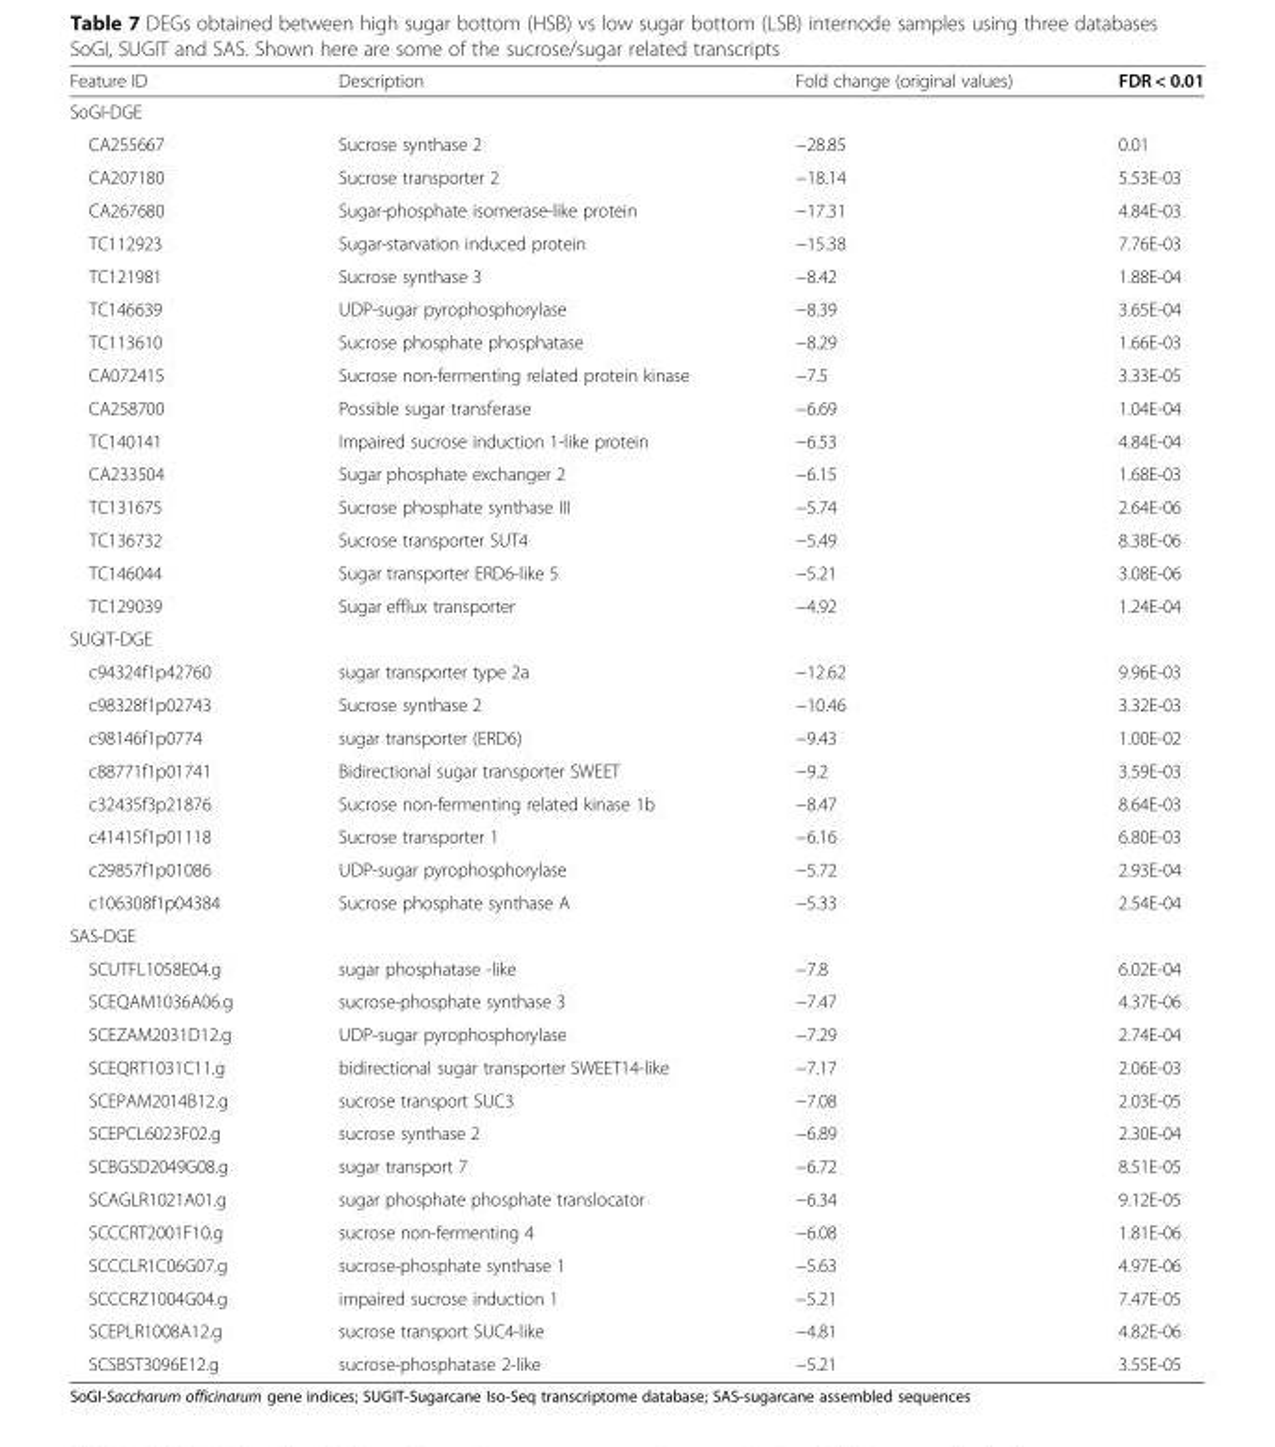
<table><thead><tr><td>Feature ID</td><td>Description</td><td>Fold change (original values)</td><td>FDR &lt; 0.01</td></tr></thead><tbody><tr><td colspan="4">SoGI-DGE</td></tr><tr><td>CA255667</td><td>Sucrose synthase 2</td><td>−28.85</td><td>0.01</td></tr><tr><td>CA207180</td><td>Sucrose transporter 2</td><td>−18.14</td><td>5.53E-03</td></tr><tr><td>CA267680</td><td>Sugar-phosphate isomerase-like protein</td><td>−17.31</td><td>4.84E-03</td></tr><tr><td>TC112923</td><td>Sugar-starvation induced protein</td><td>−15.38</td><td>7.76E-03</td></tr><tr><td>TC121981</td><td>Sucrose synthase 3</td><td>−8.42</td><td>1.88E-04</td></tr><tr><td>TC146639</td><td>UDP-sugar pyrophosphorylase</td><td>−8.39</td><td>3.65E-04</td></tr><tr><td>TC113610</td><td>Sucrose phosphate phosphatase</td><td>−8.29</td><td>1.66E-03</td></tr><tr><td>CA072415</td><td>Sucrose non-fermenting related protein kinase</td><td>−7.5</td><td>3.33E-05</td></tr><tr><td>CA258700</td><td>Possible sugar transferase</td><td>−6.69</td><td>1.04E-04</td></tr><tr><td>TC140141</td><td>Impaired sucrose induction 1-like protein</td><td>−6.53</td><td>4.84E-04</td></tr><tr><td>CA233504</td><td>Sugar phosphate exchanger 2</td><td>−6.15</td><td>1.68E-03</td></tr><tr><td>TC131675</td><td>Sucrose phosphate synthase III</td><td>−5.74</td><td>2.64E-06</td></tr><tr><td>TC136732</td><td>Sucrose transporter SUT4</td><td>−5.49</td><td>8.38E-06</td></tr><tr><td>TC146044</td><td>Sugar transporter ERD6-like 5</td><td>−5.21</td><td>3.08E-06</td></tr><tr><td>TC129039</td><td>Sugar efflux transporter</td><td>−4.92</td><td>1.24E-04</td></tr><tr><td colspan="4">SUGIT-DGE</td></tr><tr><td>c94324f1p42760</td><td>sugar transporter type 2a</td><td>−12.62</td><td>9.96E-03</td></tr><tr><td>c98328f1p02743</td><td>Sucrose synthase 2</td><td>−10.46</td><td>3.32E-03</td></tr><tr><td>c98146f1p0774</td><td>sugar transporter (ERD6)</td><td>−9.43</td><td>1.00E-02</td></tr><tr><td>c88771f1p01741</td><td>Bidirectional sugar transporter SWEET</td><td>−9.2</td><td>3.59E-03</td></tr><tr><td>c32435f3p21876</td><td>Sucrose non-fermenting related kinase 1b</td><td>−8.47</td><td>8.64E-03</td></tr><tr><td>c41415f1p01118</td><td>Sucrose transporter 1</td><td>−6.16</td><td>6.80E-03</td></tr><tr><td>c29857f1p01086</td><td>UDP-sugar pyrophosphorylase</td><td>−5.72</td><td>2.93E-04</td></tr><tr><td>c106308f1p04384</td><td>Sucrose phosphate synthase A</td><td>−5.33</td><td>2.54E-04</td></tr><tr><td colspan="4">SAS-DGE</td></tr><tr><td>SCUTFL1058E04.g</td><td>sugar phosphatase -like</td><td>−7.8</td><td>6.02E-04</td></tr><tr><td>SCEQAM1036A06.g</td><td>sucrose-phosphate synthase 3</td><td>−7.47</td><td>4.37E-06</td></tr><tr><td>SCEZAM2031D12.g</td><td>UDP-sugar pyrophosphorylase</td><td>−7.29</td><td>2.74E-04</td></tr><tr><td>SCEQRT1031C11.g</td><td>bidirectional sugar transporter SWEET14-like</td><td>−7.17</td><td>2.06E-03</td></tr><tr><td>SCEPAM2014B12.g</td><td>sucrose transport SUC3</td><td>−7.08</td><td>2.03E-05</td></tr><tr><td>SCEPCL6023F02.g</td><td>sucrose synthase 2</td><td>−6.89</td><td>2.30E-04</td></tr><tr><td>SCBGSD2049G08.g</td><td>sugar transport 7</td><td>−6.72</td><td>8.51E-05</td></tr><tr><td>SCAGLR1021A01.g</td><td>sugar phosphate phosphate translocator</td><td>−6.34</td><td>9.12E-05</td></tr><tr><td>SCCCRT2001F10.g</td><td>sucrose non-fermenting 4</td><td>−6.08</td><td>1.81E-06</td></tr><tr><td>SCCCLR1C06G07.g</td><td>sucrose-phosphate synthase 1</td><td>−5.63</td><td>4.97E-06</td></tr><tr><td>SCCCRZ1004G04.g</td><td>impaired sucrose induction 1</td><td>−5.21</td><td>7.47E-05</td></tr><tr><td>SCEPLR1008A12.g</td><td>sucrose transport SUC4-like</td><td>−4.81</td><td>4.82E-06</td></tr><tr><td>SCSBST3096E12.g</td><td>sucrose-phosphatase 2-like</td><td>−5.21</td><td>3.55E-05</td></tr></tbody></table>